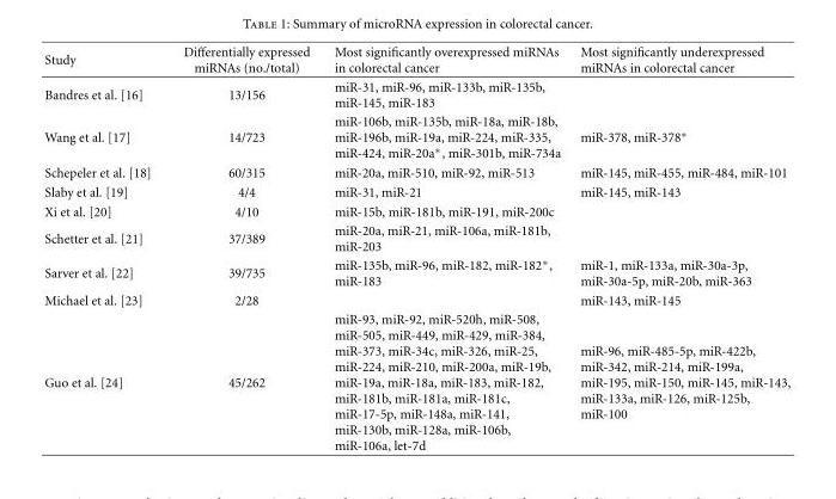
<table><thead><tr><td>Study</td><td>Differentially expressed miRNAs (no./total)</td><td>Most significantly overexpressed miRNAs in colorectal cancer</td><td>Most significantly underexpressed miRNAs in colorectal cancer</td></tr></thead><tbody><tr><td>Bandres et al. [16]</td><td>13/156</td><td>miR-31, miR-96, miR-133b, miR-135b, miR-145, miR-183</td><td></td></tr><tr><td>Wang et al. [17]</td><td>14/723</td><td>miR-106b, miR-135b, miR-18a, miR-18b, miR-196b, miR-19a, miR-224, miR-335, miR-424, miR-20a∗, miR-301b, miR-734a</td><td>miR-378, miR-378∗</td></tr><tr><td>Schepeler et al. [18]</td><td>60/315</td><td>miR-20a, miR-510, miR-92, miR-513</td><td>miR-145, miR-455, miR-484, miR-101</td></tr><tr><td>Slaby et al. [19]</td><td>4/4</td><td>miR-31, miR-21</td><td>miR-145, miR-143</td></tr><tr><td>Xi et al. [20]</td><td>4/10</td><td>miR-15b, miR-181b, miR-191, miR-200c</td><td></td></tr><tr><td>Schetter et al. [21]</td><td>37/389</td><td>miR-20a, miR-21, miR-106a, miR-181b, miR-203</td><td></td></tr><tr><td>Sarver et al. [22]</td><td>39/735</td><td>miR-135b, miR-96, miR-182, miR-182∗, miR-183</td><td>miR-1, miR-133a, miR-30a-3p, miR-30a-5p, miR-20b, miR-363</td></tr><tr><td>Michael et al. [23]</td><td>2/28</td><td></td><td>miR-143, miR-145</td></tr><tr><td>Guo et al. [24]</td><td>45/262</td><td>miR-93, miR-92, miR-520h, miR-508, miR-505, miR-449, miR-429, miR-384, miR-373, miR-34c, miR-326, miR-25, miR-224, miR-210, miR-200a, miR-19b, miR-19a, miR-18a, miR-183, miR-182, miR-181b, miR-181a, miR-181c, miR-17-5p, miR-148a, miR-141, miR-130b, miR-128a, miR-106b, miR-106a, let-7d</td><td>miR-96, miR-485-5p, miR-422b, miR-342, miR-214, miR-199a, miR-195, miR-150, miR-145, miR-143, miR-133a, miR-126, miR-125b, miR-100</td></tr></tbody></table>